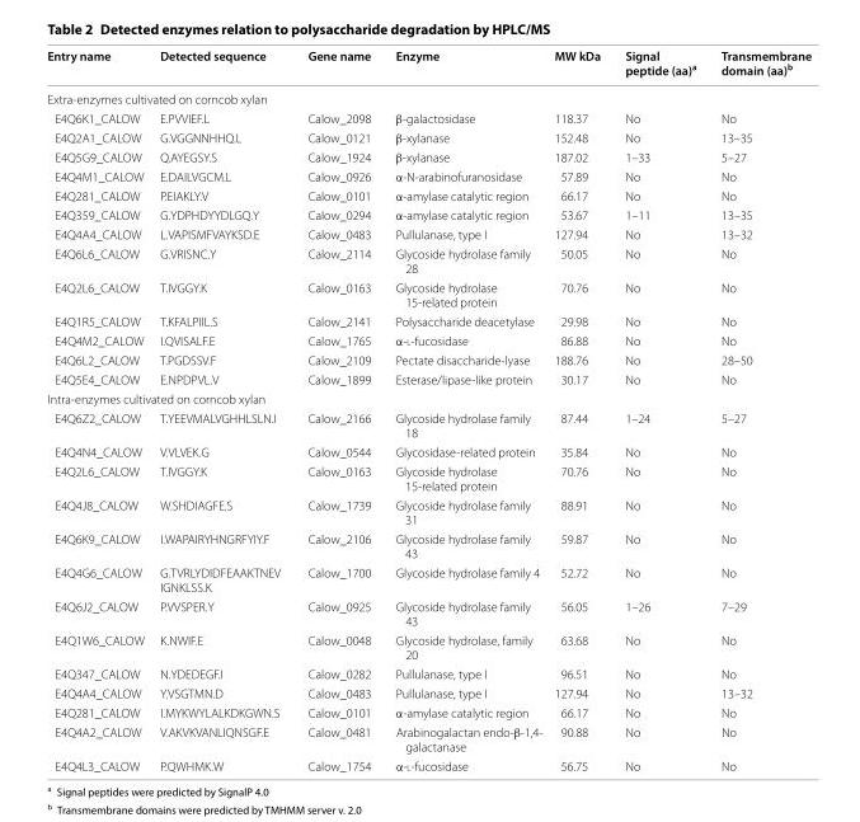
<table><thead><tr><td>Entry name</td><td>Detected sequence</td><td>Gene name</td><td>Enzyme</td><td>MW kDa</td><td>Signal peptide (aa)<sup>a</sup></td><td>Transmembrane domain (aa)<sup>b</sup></td></tr></thead><tbody><tr><td colspan="7">Extra-enzymes cultivated on corncob xylan</td></tr><tr><td>E4Q6K1_CALOW</td><td>E.PVVIEF.L</td><td>Calow_2098</td><td>β-galactosidase</td><td>118.37</td><td>No</td><td>No</td></tr><tr><td>E4Q2A1_CALOW</td><td>G.VGGNNHHQ.L</td><td>Calow_0121</td><td>β-xylanase</td><td>152.48</td><td>No</td><td>13–35</td></tr><tr><td>E4Q5G9_CALOW</td><td>Q.AYEGSY.S</td><td>Calow_1924</td><td>β-xylanase</td><td>187.02</td><td>1–33</td><td>5–27</td></tr><tr><td>E4Q4M1_CALOW</td><td>E.DAILVGCM.L</td><td>Calow_0926</td><td>α-N-arabinofuranosidase</td><td>57.89</td><td>No</td><td>No</td></tr><tr><td>E4Q281_CALOW</td><td>P.EIAKLY.V</td><td>Calow_0101</td><td>α-amylase catalytic region</td><td>66.17</td><td>No</td><td>No</td></tr><tr><td>E4Q359_CALOW</td><td>G.YDPHDYYDLGQ.Y</td><td>Calow_0294</td><td>α-amylase catalytic region</td><td>53.67</td><td>1–11</td><td>13–35</td></tr><tr><td>E4Q4A4_CALOW</td><td>L.VAPISMFVAYKSD.E</td><td>Calow_0483</td><td>Pullulanase, type I</td><td>127.94</td><td>No</td><td>13–32</td></tr><tr><td>E4Q6L6_CALOW</td><td>G.VRISNC.Y</td><td>Calow_2114</td><td>Glycoside hydrolase family 28</td><td>50.05</td><td>No</td><td>No</td></tr><tr><td>E4Q2L6_CALOW</td><td>T.IVGGY.K</td><td>Calow_0163</td><td>Glycoside hydrolase 15-related protein</td><td>70.76</td><td>No</td><td>No</td></tr><tr><td>E4Q1R5_CALOW</td><td>T.KFALPIIL.S</td><td>Calow_2141</td><td>Polysaccharide deacetylase</td><td>29.98</td><td>No</td><td>No</td></tr><tr><td>E4Q4M2_CALOW</td><td>I.QVISALF.E</td><td>Calow_1765</td><td>α-l-fucosidase</td><td>86.88</td><td>No</td><td>No</td></tr><tr><td>E4Q6L2_CALOW</td><td>T.PGDSSV.F</td><td>Calow_2109</td><td>Pectate disaccharide-lyase</td><td>188.76</td><td>No</td><td>28–50</td></tr><tr><td>E4Q5E4_CALOW</td><td>E.NPDPVL.V</td><td>Calow_1899</td><td>Esterase/lipase-like protein</td><td>30.17</td><td>No</td><td>No</td></tr><tr><td colspan="7">Intra-enzymes cultivated on corncob xylan</td></tr><tr><td>E4Q6Z2_CALOW</td><td>T.YEEVMALVGHHLSLN.I</td><td>Calow_2166</td><td>Glycoside hydrolase family 18</td><td>87.44</td><td>1–24</td><td>5–27</td></tr><tr><td>E4Q4N4_CALOW</td><td>V.VLVEK.G</td><td>Calow_0544</td><td>Glycosidase-related protein</td><td>35.84</td><td>No</td><td>No</td></tr><tr><td>E4Q2L6_CALOW</td><td>T.IVGGY.K</td><td>Calow_0163</td><td>Glycoside hydrolase 15-related protein</td><td>70.76</td><td>No</td><td>No</td></tr><tr><td>E4Q4J8_CALOW</td><td>W.SHDIAGFE.S</td><td>Calow_1739</td><td>Glycoside hydrolase family 31</td><td>88.91</td><td>No</td><td>No</td></tr><tr><td>E4Q6K9_CALOW</td><td>I.WAPAIRYHNGRFYIY.F</td><td>Calow_2106</td><td>Glycoside hydrolase family 43</td><td>59.87</td><td>No</td><td>No</td></tr><tr><td>E4Q4G6_CALOW</td><td>G.TVRLYDIDFEAAKTNEV IGNKLSS.K</td><td>Calow_1700</td><td>Glycoside hydrolase family 4</td><td>52.72</td><td>No</td><td>No</td></tr><tr><td>E4Q6J2_CALOW</td><td>P.VVSPER.Y</td><td>Calow_0925</td><td>Glycoside hydrolase family 43</td><td>56.05</td><td>1–26</td><td>7–29</td></tr><tr><td>E4Q1W6_CALOW</td><td>K.NWIF.E</td><td>Calow_0048</td><td>Glycoside hydrolase, family 20</td><td>63.68</td><td>No</td><td>No</td></tr><tr><td>E4Q347_CALOW</td><td>N.YDEDEGF.I</td><td>Calow_0282</td><td>Pullulanase, type I</td><td>96.51</td><td>No</td><td>No</td></tr><tr><td>E4Q4A4_CALOW</td><td>Y.VSGTMN.D</td><td>Calow_0483</td><td>Pullulanase, type I</td><td>127.94</td><td>No</td><td>13–32</td></tr><tr><td>E4Q281_CALOW</td><td>I.MYKWYLALKDKGWN.S</td><td>Calow_0101</td><td>α-amylase catalytic region</td><td>66.17</td><td>No</td><td>No</td></tr><tr><td>E4Q4A2_CALOW</td><td>V.AKVKVANLIQNSGF.E</td><td>Calow_0481</td><td>Arabinogalactan endo-β-1,4- galactanase</td><td>90.88</td><td>No</td><td>No</td></tr><tr><td>E4Q4L3_CALOW</td><td>P.QWHMK.W</td><td>Calow_1754</td><td>α-l-fucosidase</td><td>56.75</td><td>No</td><td>No</td></tr></tbody></table>